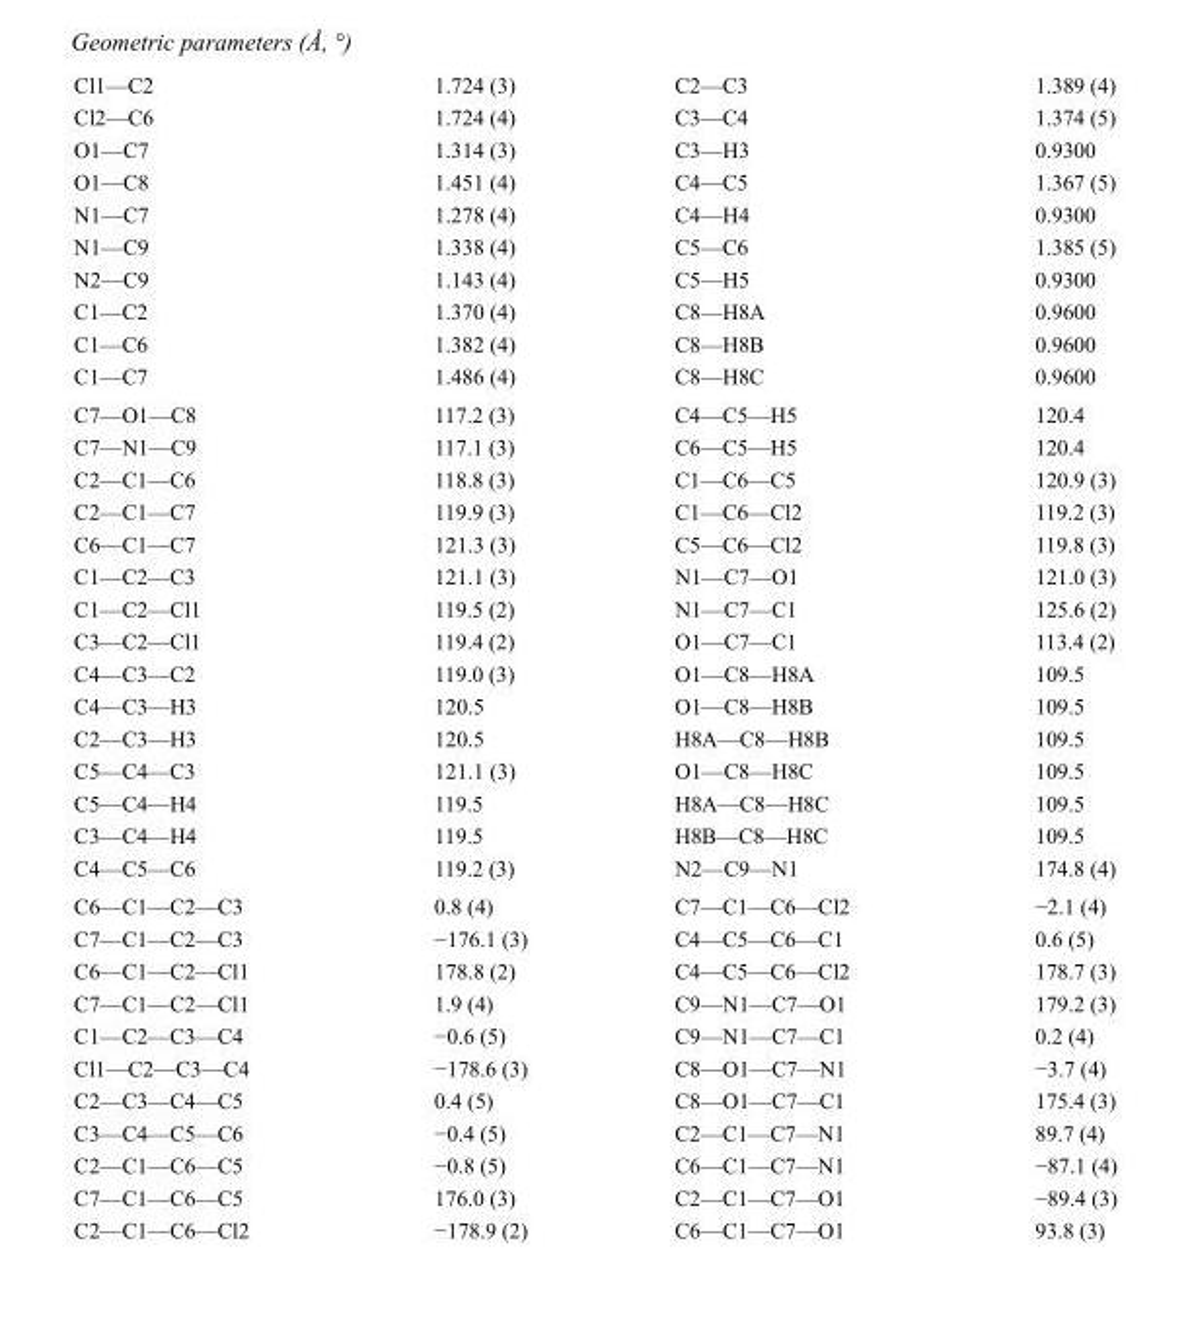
<table><tbody><tr><td>Cl1—C2</td><td>1.724 (3)</td><td>C2—C3</td><td>1.389 (4)</td></tr><tr><td>Cl2—C6</td><td>1.724 (4)</td><td>C3—C4</td><td>1.374 (5)</td></tr><tr><td>O1—C7</td><td>1.314 (3)</td><td>C3—H3</td><td>0.9300</td></tr><tr><td>O1—C8</td><td>1.451 (4)</td><td>C4—C5</td><td>1.367 (5)</td></tr><tr><td>N1—C7</td><td>1.278 (4)</td><td>C4—H4</td><td>0.9300</td></tr><tr><td>N1—C9</td><td>1.338 (4)</td><td>C5—C6</td><td>1.385 (5)</td></tr><tr><td>N2—C9</td><td>1.143 (4)</td><td>C5—H5</td><td>0.9300</td></tr><tr><td>C1—C2</td><td>1.370 (4)</td><td>C8—H8A</td><td>0.9600</td></tr><tr><td>C1—C6</td><td>1.382 (4)</td><td>C8—H8B</td><td>0.9600</td></tr><tr><td>C1—C7</td><td>1.486 (4)</td><td>C8—H8C</td><td>0.9600</td></tr><tr><td>C7—O1—C8</td><td>117.2 (3)</td><td>C4—C5—H5</td><td>120.4</td></tr><tr><td>C7—N1—C9</td><td>117.1 (3)</td><td>C6—C5—H5</td><td>120.4</td></tr><tr><td>C2—C1—C6</td><td>118.8 (3)</td><td>C1—C6—C5</td><td>120.9 (3)</td></tr><tr><td>C2—C1—C7</td><td>119.9 (3)</td><td>C1—C6—Cl2</td><td>119.2 (3)</td></tr><tr><td>C6—C1—C7</td><td>121.3 (3)</td><td>C5—C6—Cl2</td><td>119.8 (3)</td></tr><tr><td>C1—C2—C3</td><td>121.1 (3)</td><td>N1—C7—O1</td><td>121.0 (3)</td></tr><tr><td>C1—C2—Cl1</td><td>119.5 (2)</td><td>N1—C7—C1</td><td>125.6 (2)</td></tr><tr><td>C3—C2—Cl1</td><td>119.4 (2)</td><td>O1—C7—C1</td><td>113.4 (2)</td></tr><tr><td>C4—C3—C2</td><td>119.0 (3)</td><td>O1—C8—H8A</td><td>109.5</td></tr><tr><td>C4—C3—H3</td><td>120.5</td><td>O1—C8—H8B</td><td>109.5</td></tr><tr><td>C2—C3—H3</td><td>120.5</td><td>H8A—C8—H8B</td><td>109.5</td></tr><tr><td>C5—C4—C3</td><td>121.1 (3)</td><td>O1—C8—H8C</td><td>109.5</td></tr><tr><td>C5—C4—H4</td><td>119.5</td><td>H8A—C8—H8C</td><td>109.5</td></tr><tr><td>C3—C4—H4</td><td>119.5</td><td>H8B—C8—H8C</td><td>109.5</td></tr><tr><td>C4—C5—C6</td><td>119.2 (3)</td><td>N2—C9—N1</td><td>174.8 (4)</td></tr><tr><td>C6—C1—C2—C3</td><td>0.8 (4)</td><td>C7—C1—C6—Cl2</td><td>−2.1 (4)</td></tr><tr><td>C7—C1—C2—C3</td><td>−176.1 (3)</td><td>C4—C5—C6—C1</td><td>0.6 (5)</td></tr><tr><td>C6—C1—C2—Cl1</td><td>178.8 (2)</td><td>C4—C5—C6—Cl2</td><td>178.7 (3)</td></tr><tr><td>C7—C1—C2—Cl1</td><td>1.9 (4)</td><td>C9—N1—C7—O1</td><td>179.2 (3)</td></tr><tr><td>C1—C2—C3—C4</td><td>−0.6 (5)</td><td>C9—N1—C7—C1</td><td>0.2 (4)</td></tr><tr><td>Cl1—C2—C3—C4</td><td>−178.6 (3)</td><td>C8—O1—C7—N1</td><td>−3.7 (4)</td></tr><tr><td>C2—C3—C4—C5</td><td>0.4 (5)</td><td>C8—O1—C7—C1</td><td>175.4 (3)</td></tr><tr><td>C3—C4—C5—C6</td><td>−0.4 (5)</td><td>C2—C1—C7—N1</td><td>89.7 (4)</td></tr><tr><td>C2—C1—C6—C5</td><td>−0.8 (5)</td><td>C6—C1—C7—N1</td><td>−87.1 (4)</td></tr><tr><td>C7—C1—C6—C5</td><td>176.0 (3)</td><td>C2—C1—C7—O1</td><td>−89.4 (3)</td></tr><tr><td>C2—C1—C6—Cl2</td><td>−178.9 (2)</td><td>C6—C1—C7—O1</td><td>93.8 (3)</td></tr></tbody></table>